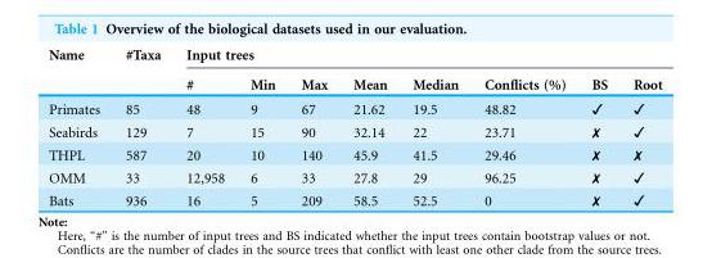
<table><thead><tr><td rowspan="2">Name</td><td rowspan="2">#Taxa</td><td colspan="8">Input trees</td></tr><tr><td>#</td><td>Min</td><td>Max</td><td>Mean</td><td>Median</td><td>Conflicts (%)</td><td>BS</td><td>Root</td></tr></thead><tbody><tr><td>Primates</td><td>85</td><td>48</td><td>9</td><td>67</td><td>21.62</td><td>19.5</td><td>48.82</td><td>✓</td><td>✓</td></tr><tr><td>Seabirds</td><td>129</td><td>7</td><td>15</td><td>90</td><td>32.14</td><td>22</td><td>23.71</td><td>✗</td><td>✓</td></tr><tr><td>THPL</td><td>587</td><td>20</td><td>10</td><td>140</td><td>45.9</td><td>41.5</td><td>29.46</td><td>✗</td><td>✗</td></tr><tr><td>OMM</td><td>33</td><td>12,958</td><td>6</td><td>33</td><td>27.8</td><td>29</td><td>96.25</td><td>✗</td><td>✓</td></tr><tr><td>Bats</td><td>936</td><td>16</td><td>5</td><td>209</td><td>58.5</td><td>52.5</td><td>0</td><td>✗</td><td>✓</td></tr></tbody></table>